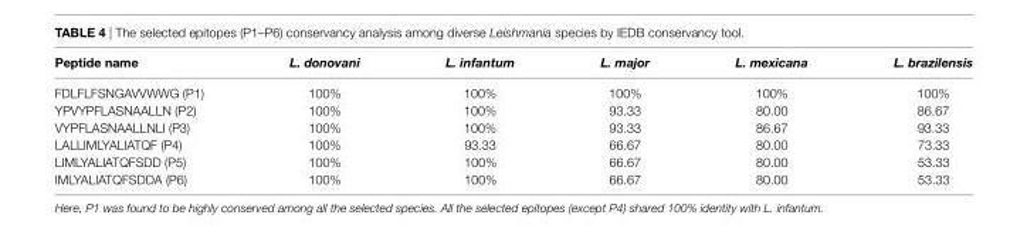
<table><thead><tr><td>Peptide name</td><td>L. donovani</td><td>L. infantum</td><td>L. major</td><td>L. mexicana</td><td>L. brazilensis</td></tr></thead><tbody><tr><td>FDLFLFSNGAVVWWG (P1)</td><td>100%</td><td>100%</td><td>100%</td><td>100%</td><td>100%</td></tr><tr><td>YPVYPFLASNAALLN (P2)</td><td>100%</td><td>100%</td><td>93.33</td><td>80.00</td><td>86.67</td></tr><tr><td>VYPFLASNAALLNLI (P3)</td><td>100%</td><td>100%</td><td>93.33</td><td>86.67</td><td>93.33</td></tr><tr><td>LALLIMLYALIATQF (P4)</td><td>100%</td><td>93.33</td><td>66.67</td><td>80.00</td><td>73.33</td></tr><tr><td>LIMLYALIATQFSDD (P5)</td><td>100%</td><td>100%</td><td>66.67</td><td>80.00</td><td>53.33</td></tr><tr><td>IMLYALIATQFSDDA (P6)</td><td>100%</td><td>100%</td><td>66.67</td><td>80.00</td><td>53.33</td></tr></tbody></table>